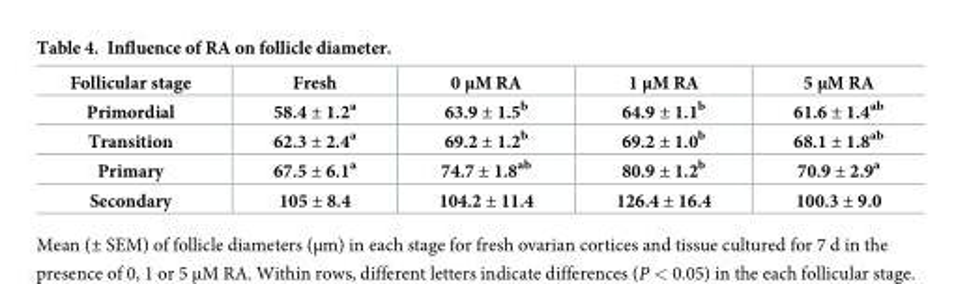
<table><thead><tr><td>Follicular stage</td><td>Fresh</td><td>0 μM RA</td><td>1 μM RA</td><td>5 μM RA</td></tr></thead><tbody><tr><td>Primordial</td><td>58.4 ± 1.2<sup>a</sup></td><td>63.9 ± 1.5<sup>b</sup></td><td>64.9 ± 1.1<sup>b</sup></td><td>61.6 ± 1.4<sup>ab</sup></td></tr><tr><td>Transition</td><td>62.3 ± 2.4<sup>a</sup></td><td>69.2 ± 1.2<sup>b</sup></td><td>69.2 ± 1.0<sup>b</sup></td><td>68.1 ± 1.8<sup>ab</sup></td></tr><tr><td>Primary</td><td>67.5 ± 6.1<sup>a</sup></td><td>74.7 ± 1.8<sup>ab</sup></td><td>80.9 ± 1.2<sup>b</sup></td><td>70.9 ± 2.9<sup>a</sup></td></tr><tr><td>Secondary</td><td>105 ± 8.4</td><td>104.2 ± 11.4</td><td>126.4 ± 16.4</td><td>100.3 ± 9.0</td></tr></tbody></table>